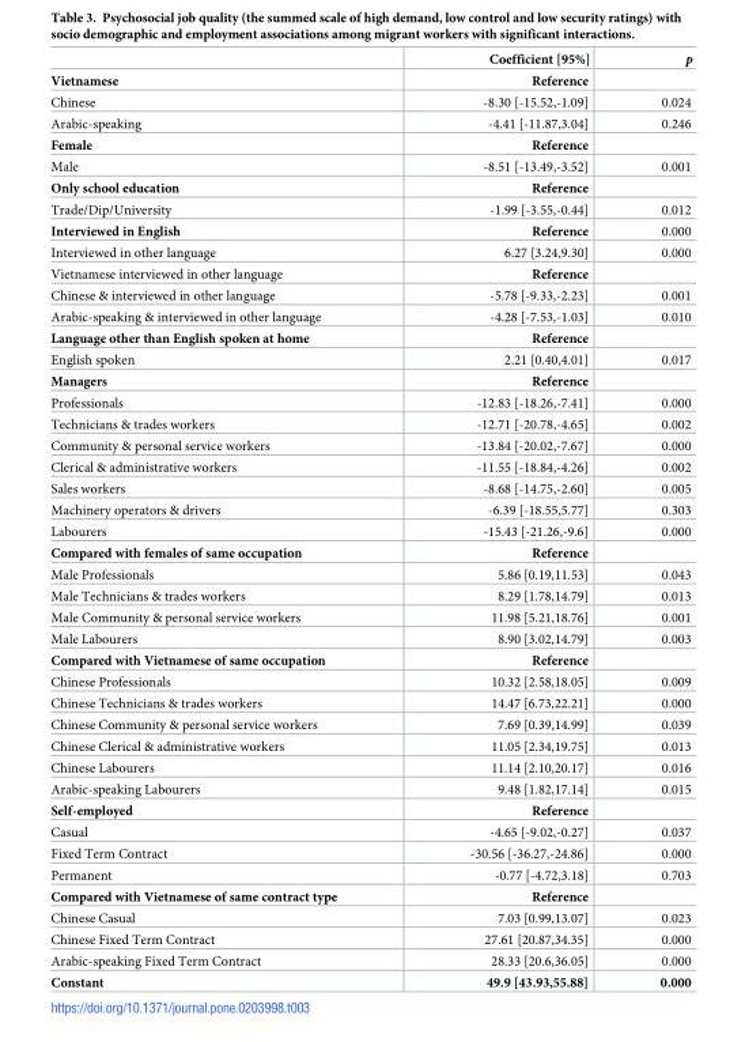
<table><thead><tr><td></td><td>Coefficient [95%]</td><td>p</td></tr></thead><tbody><tr><td>Vietnamese</td><td>Reference</td><td></td></tr><tr><td>Chinese</td><td>-8.30 [-15.52,-1.09]</td><td>0.024</td></tr><tr><td>Arabic-speaking</td><td>-4.41 [-11.87,3.04]</td><td>0.246</td></tr><tr><td>Female</td><td>Reference</td><td></td></tr><tr><td>Male</td><td>-8.51 [-13.49,-3.52]</td><td>0.001</td></tr><tr><td>Only school education</td><td>Reference</td><td></td></tr><tr><td>Trade/Dip/University</td><td>-1.99 [-3.55,-0.44]</td><td>0.012</td></tr><tr><td>Interviewed in English</td><td>Reference</td><td>0.000</td></tr><tr><td>Interviewed in other language</td><td>6.27 [3.24,9.30]</td><td>0.000</td></tr><tr><td>Vietnamese interviewed in other language</td><td>Reference</td><td></td></tr><tr><td>Chinese &amp; interviewed in other language</td><td>-5.78 [-9.33,-2.23]</td><td>0.001</td></tr><tr><td>Arabic-speaking &amp; interviewed in other language</td><td>-4.28 [-7.53,-1.03]</td><td>0.010</td></tr><tr><td>Language other than English spoken at home</td><td>Reference</td><td></td></tr><tr><td>English spoken</td><td>2.21 [0.40,4.01]</td><td>0.017</td></tr><tr><td>Managers</td><td>Reference</td><td></td></tr><tr><td>Professionals</td><td>-12.83 [-18.26,-7.41]</td><td>0.000</td></tr><tr><td>Technicians &amp; trades workers</td><td>-12.71 [-20.78,-4.65]</td><td>0.002</td></tr><tr><td>Community &amp; personal service workers</td><td>-13.84 [-20.02,-7.67]</td><td>0.000</td></tr><tr><td>Clerical &amp; administrative workers</td><td>-11.55 [-18.84,-4.26]</td><td>0.002</td></tr><tr><td>Sales workers</td><td>-8.68 [-14.75,-2.60]</td><td>0.005</td></tr><tr><td>Machinery operators &amp; drivers</td><td>-6.39 [-18.55,5.77]</td><td>0.303</td></tr><tr><td>Labourers</td><td>-15.43 [-21.26,-9.6]</td><td>0.000</td></tr><tr><td>Compared with females of same occupation</td><td>Reference</td><td></td></tr><tr><td>Male Professionals</td><td>5.86 [0.19,11.53]</td><td>0.043</td></tr><tr><td>Male Technicians &amp; trades workers</td><td>8.29 [1.78,14.79]</td><td>0.013</td></tr><tr><td>Male Community &amp; personal service workers</td><td>11.98 [5.21,18.76]</td><td>0.001</td></tr><tr><td>Male Labourers</td><td>8.90 [3.02,14.79]</td><td>0.003</td></tr><tr><td>Compared with Vietnamese of same occupation</td><td>Reference</td><td></td></tr><tr><td>Chinese Professionals</td><td>10.32 [2.58,18.05]</td><td>0.009</td></tr><tr><td>Chinese Technicians &amp; trades workers</td><td>14.47 [6.73,22.21]</td><td>0.000</td></tr><tr><td>Chinese Community &amp; personal service workers</td><td>7.69 [0.39,14.99]</td><td>0.039</td></tr><tr><td>Chinese Clerical &amp; administrative workers</td><td>11.05 [2.34,19.75]</td><td>0.013</td></tr><tr><td>Chinese Labourers</td><td>11.14 [2.10,20.17]</td><td>0.016</td></tr><tr><td>Arabic-speaking Labourers</td><td>9.48 [1.82,17.14]</td><td>0.015</td></tr><tr><td>Self-employed</td><td>Reference</td><td></td></tr><tr><td>Casual</td><td>-4.65 [-9.02,-0.27]</td><td>0.037</td></tr><tr><td>Fixed Term Contract</td><td>-30.56 [-36.27,-24.86]</td><td>0.000</td></tr><tr><td>Permanent</td><td>-0.77 [-4.72,3.18]</td><td>0.703</td></tr><tr><td>Compared with Vietnamese of same contract type</td><td>Reference</td><td></td></tr><tr><td>Chinese Casual</td><td>7.03 [0.99,13.07]</td><td>0.023</td></tr><tr><td>Chinese Fixed Term Contract</td><td>27.61 [20.87,34.35]</td><td>0.000</td></tr><tr><td>Arabic-speaking Fixed Term Contract</td><td>28.33 [20.6,36.05]</td><td>0.000</td></tr><tr><td>Constant</td><td>49.9 [43.93,55.88]</td><td>0.000</td></tr></tbody></table>